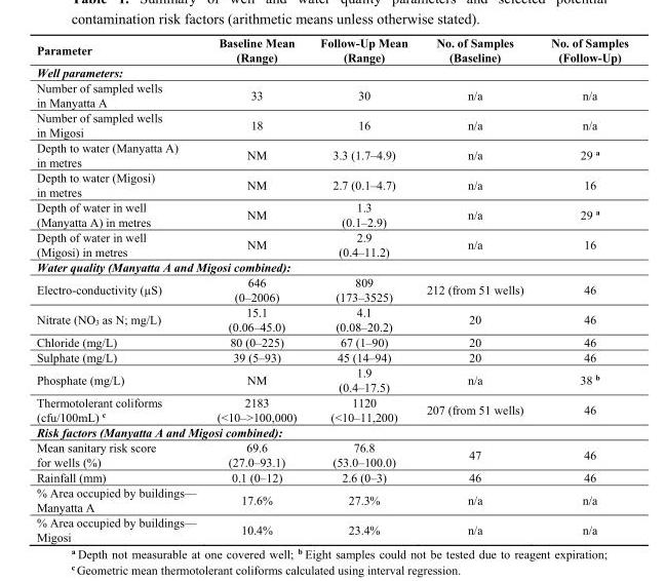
<table><thead><tr><td>Parameter</td><td>Baseline Mean (Range)</td><td>Follow-Up Mean (Range)</td><td>No. of Samples (Baseline)</td><td>No. of Samples (Follow-Up)</td></tr></thead><tbody><tr><td colspan="5">Well parameters:</td></tr><tr><td>Number of sampled wells in Manyatta A</td><td>33</td><td>30</td><td>n/a</td><td>n/a</td></tr><tr><td>Number of sampled wells in Migosi</td><td>18</td><td>16</td><td>n/a</td><td>n/a</td></tr><tr><td>Depth to water (Manyatta A) in metres</td><td>NM</td><td>3.3 (1.7–4.9)</td><td>n/a</td><td>29 <sup>a</sup></td></tr><tr><td>Depth to water (Migosi) in metres</td><td>NM</td><td>2.7 (0.1–4.7)</td><td>n/a</td><td>16</td></tr><tr><td>Depth of water in well (Manyatta A) in metres</td><td>NM</td><td>1.3 (0.1–2.9)</td><td>n/a</td><td>29 <sup>a</sup></td></tr><tr><td>Depth of water in well (Migosi) in metres</td><td>NM</td><td>2.9 (0.4–11.2)</td><td>n/a</td><td>16</td></tr><tr><td colspan="5">Water quality (Manyatta A and Migosi combined):</td></tr><tr><td>Electro-conductivity (µS)</td><td>646 (0–2006)</td><td>809 (173–3525)</td><td>212 (from 51 wells)</td><td>46</td></tr><tr><td>Nitrate (NO<sub>3</sub> as N; mg/L)</td><td>15.1 (0.06–45.0)</td><td>4.1 (0.08–20.2)</td><td>20</td><td>46</td></tr><tr><td>Chloride (mg/L)</td><td>80 (0–225)</td><td>67 (1–90)</td><td>20</td><td>46</td></tr><tr><td>Sulphate (mg/L)</td><td>39 (5–93)</td><td>45 (14–94)</td><td>20</td><td>46</td></tr><tr><td>Phosphate (mg/L)</td><td>NM</td><td>1.9 (0.4–17.5)</td><td>n/a</td><td>38 <sup>b</sup></td></tr><tr><td>Thermotolerant coliforms (cfu/100mL) <sup>c</sup></td><td>2183 (&lt;10–&gt;100,000)</td><td>1120 (&lt;10–11,200)</td><td>207 (from 51 wells)</td><td>46</td></tr><tr><td colspan="5">Risk factors (Manyatta A and Migosi combined):</td></tr><tr><td>Mean sanitary risk score for wells (%)</td><td>69.6 (27.0–93.1)</td><td>76.8 (53.0–100.0)</td><td>47</td><td>46</td></tr><tr><td>Rainfall (mm)</td><td>0.1 (0–12)</td><td>2.6 (0–3)</td><td>46</td><td>46</td></tr><tr><td>% Area occupied by buildings— Manyatta A</td><td>17.6%</td><td>27.3%</td><td>n/a</td><td>n/a</td></tr><tr><td>% Area occupied by buildings— Migosi</td><td>10.4%</td><td>23.4%</td><td>n/a</td><td>n/a</td></tr></tbody></table>